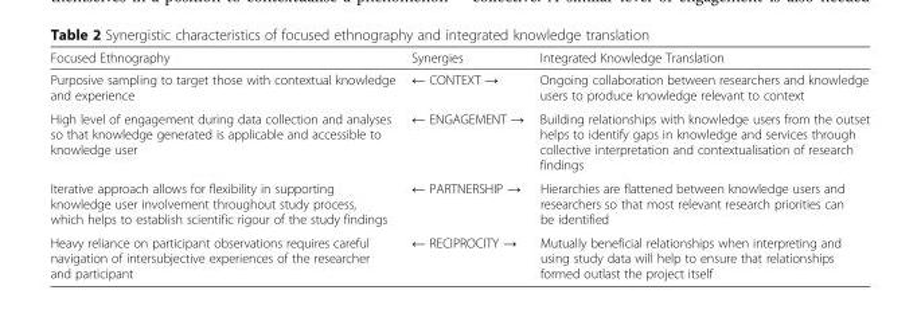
<table><thead><tr><td>Focused Ethnography</td><td>Synergies</td><td>Integrated Knowledge Translation</td></tr></thead><tbody><tr><td>Purposive sampling to target those with contextual knowledge and experience</td><td>← CONTEXT →</td><td>Ongoing collaboration between researchers and knowledge users to produce knowledge relevant to context</td></tr><tr><td>High level of engagement during data collection and analyses so that knowledge generated is applicable and accessible to knowledge user</td><td>← ENGAGEMENT →</td><td>Building relationships with knowledge users from the outset helps to identify gaps in knowledge and services through collective interpretation and contextualisation of research findings</td></tr><tr><td>Iterative approach allows for flexibility in supporting knowledge user involvement throughout study process, which helps to establish scientific rigour of the study findings</td><td>← PARTNERSHIP →</td><td>Hierarchies are flattened between knowledge users and researchers so that most relevant research priorities can be identified</td></tr><tr><td>Heavy reliance on participant observations requires careful navigation of intersubjective experiences of the researcher and participant</td><td>← RECIPROCITY →</td><td>Mutually beneficial relationships when interpreting and using study data will help to ensure that relationships formed outlast the project itself</td></tr></tbody></table>